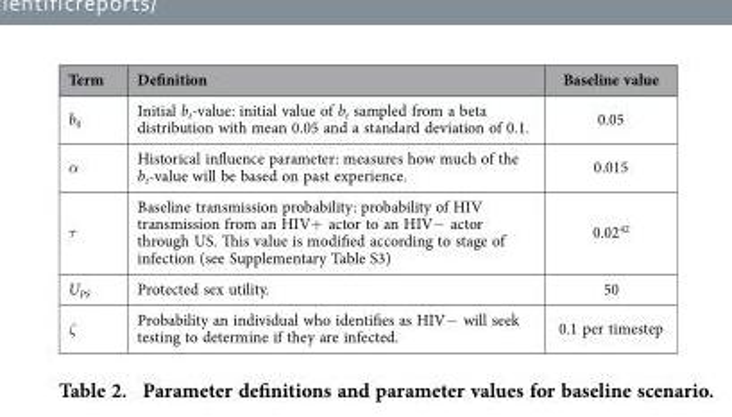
<table><thead><tr><td>Term</td><td>Definition</td><td>Baseline value</td></tr></thead><tbody><tr><td>b<sub>0</sub></td><td>Initial b<sub>t</sub>-value: initial value of b<sub>t</sub> sampled from a beta distribution with mean 0.05 and a standard deviation of 0.1.</td><td>0.05</td></tr><tr><td>α</td><td>Historical influence parameter: measures how much of the b<sub>t</sub>-value will be based on past experience.</td><td>0.015</td></tr><tr><td>τ</td><td>Baseline transmission probability: probability of HIV transmission from an HIV+ actor to an HIV− actor through US. This value is modified according to stage of infection (see Supplementary Table S3)</td><td>0.02<sup>42</sup></td></tr><tr><td>U<sub>PS</sub></td><td>Protected sex utility.</td><td>50</td></tr><tr><td>ζ</td><td>Probability an individual who identifies as HIV− will seek testing to determine if they are infected.</td><td>0.1 per timestep</td></tr></tbody></table>